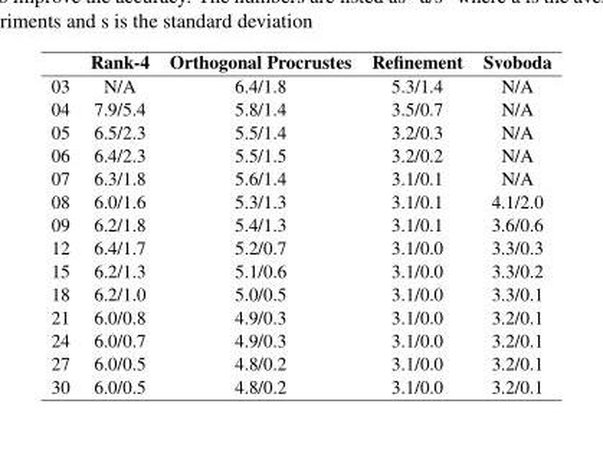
<table><thead><tr><td></td><td>Rank-4</td><td>Orthogonal Procrustes</td><td>Refinement</td><td>Svoboda</td></tr></thead><tbody><tr><td>03</td><td>N/A</td><td>6.4/1.8</td><td>5.3/1.4</td><td>N/A</td></tr><tr><td>04</td><td>7.9/5.4</td><td>5.8/1.4</td><td>3.5/0.7</td><td>N/A</td></tr><tr><td>05</td><td>6.5/2.3</td><td>5.5/1.4</td><td>3.2/0.3</td><td>N/A</td></tr><tr><td>06</td><td>6.4/2.3</td><td>5.5/1.5</td><td>3.2/0.2</td><td>N/A</td></tr><tr><td>07</td><td>6.3/1.8</td><td>5.6/1.4</td><td>3.1/0.1</td><td>N/A</td></tr><tr><td>08</td><td>6.0/1.6</td><td>5.3/1.3</td><td>3.1/0.1</td><td>4.1/2.0</td></tr><tr><td>09</td><td>6.2/1.8</td><td>5.4/1.3</td><td>3.1/0.1</td><td>3.6/0.6</td></tr><tr><td>12</td><td>6.4/1.7</td><td>5.2/0.7</td><td>3.1/0.0</td><td>3.3/0.3</td></tr><tr><td>15</td><td>6.2/1.3</td><td>5.1/0.6</td><td>3.1/0.0</td><td>3.3/0.2</td></tr><tr><td>18</td><td>6.2/1.0</td><td>5.0/0.5</td><td>3.1/0.0</td><td>3.3/0.1</td></tr><tr><td>21</td><td>6.0/0.8</td><td>4.9/0.3</td><td>3.1/0.0</td><td>3.2/0.1</td></tr><tr><td>24</td><td>6.0/0.7</td><td>4.9/0.3</td><td>3.1/0.0</td><td>3.2/0.1</td></tr><tr><td>27</td><td>6.0/0.5</td><td>4.8/0.2</td><td>3.1/0.0</td><td>3.2/0.1</td></tr><tr><td>30</td><td>6.0/0.5</td><td>4.8/0.2</td><td>3.1/0.0</td><td>3.2/0.1</td></tr></tbody></table>